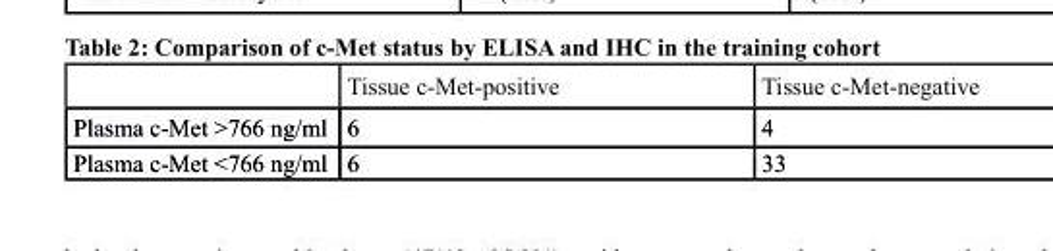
<table><thead><tr><td></td><td>Tissue c-Met-positive</td><td>Tissue c-Met-negative</td></tr></thead><tbody><tr><td>Plasma c-Met &gt;766 ng/ml</td><td>6</td><td>4</td></tr><tr><td>Plasma c-Met &lt;766 ng/ml</td><td>6</td><td>33</td></tr></tbody></table>